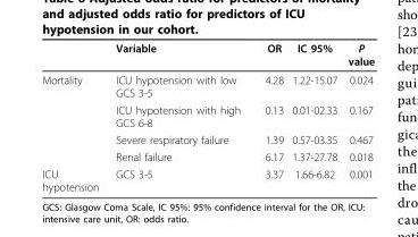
<table><thead><tr><td></td><td>Variable</td><td>OR</td><td>IC 95%</td><td>P value</td></tr></thead><tbody><tr><td rowspan="4">Mortality</td><td>ICU hypotension with low GCS 3-5</td><td>4.28</td><td>1.22-15.07</td><td>0.024</td></tr><tr><td>ICU hypotension with high GCS 6-8</td><td>0.13</td><td>0.01-02.33</td><td>0.167</td></tr><tr><td>Severe respiratory failure</td><td>1.39</td><td>0.57-03.35</td><td>0.467</td></tr><tr><td>Renal failure</td><td>6.17</td><td>1.37-27.78</td><td>0.018</td></tr><tr><td>ICU hypotension</td><td>GCS 3-5</td><td>3.37</td><td>1.66-6.82</td><td>0.001</td></tr></tbody></table>